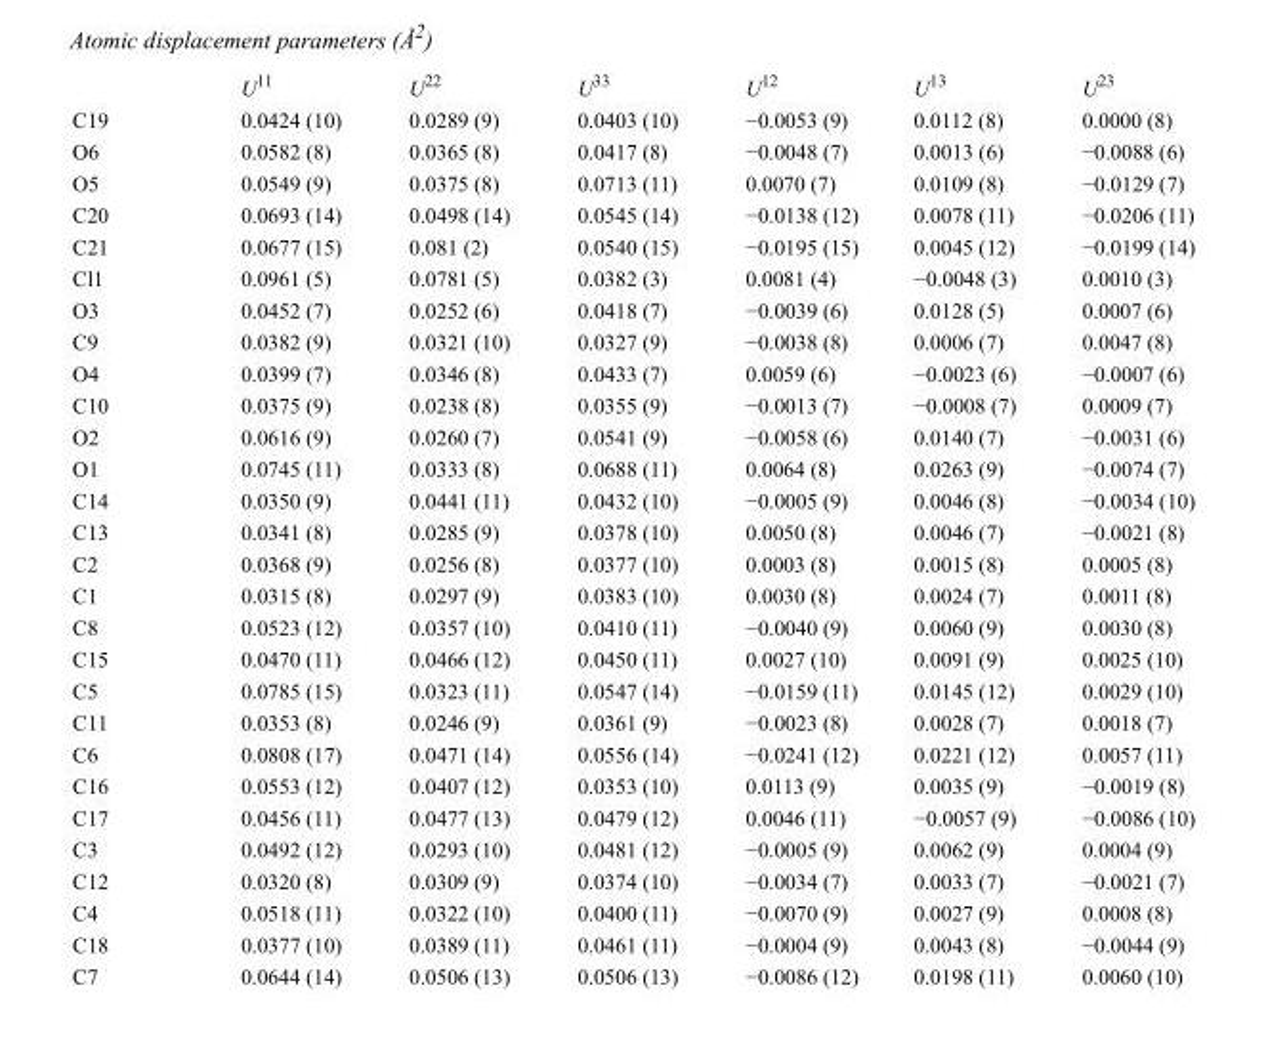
<table><thead><tr><td></td><td>U<sup>11</sup></td><td>U<sup>22</sup></td><td>U<sup>33</sup></td><td>U<sup>12</sup></td><td>U<sup>13</sup></td><td>U<sup>23</sup></td></tr></thead><tbody><tr><td>C19</td><td>0.0424 (10)</td><td>0.0289 (9)</td><td>0.0403 (10)</td><td>−0.0053 (9)</td><td>0.0112 (8)</td><td>0.0000 (8)</td></tr><tr><td>O6</td><td>0.0582 (8)</td><td>0.0365 (8)</td><td>0.0417 (8)</td><td>−0.0048 (7)</td><td>0.0013 (6)</td><td>−0.0088 (6)</td></tr><tr><td>O5</td><td>0.0549 (9)</td><td>0.0375 (8)</td><td>0.0713 (11)</td><td>0.0070 (7)</td><td>0.0109 (8)</td><td>−0.0129 (7)</td></tr><tr><td>C20</td><td>0.0693 (14)</td><td>0.0498 (14)</td><td>0.0545 (14)</td><td>−0.0138 (12)</td><td>0.0078 (11)</td><td>−0.0206 (11)</td></tr><tr><td>C21</td><td>0.0677 (15)</td><td>0.081 (2)</td><td>0.0540 (15)</td><td>−0.0195 (15)</td><td>0.0045 (12)</td><td>−0.0199 (14)</td></tr><tr><td>Cl1</td><td>0.0961 (5)</td><td>0.0781 (5)</td><td>0.0382 (3)</td><td>0.0081 (4)</td><td>−0.0048 (3)</td><td>0.0010 (3)</td></tr><tr><td>O3</td><td>0.0452 (7)</td><td>0.0252 (6)</td><td>0.0418 (7)</td><td>−0.0039 (6)</td><td>0.0128 (5)</td><td>0.0007 (6)</td></tr><tr><td>C9</td><td>0.0382 (9)</td><td>0.0321 (10)</td><td>0.0327 (9)</td><td>−0.0038 (8)</td><td>0.0006 (7)</td><td>0.0047 (8)</td></tr><tr><td>O4</td><td>0.0399 (7)</td><td>0.0346 (8)</td><td>0.0433 (7)</td><td>0.0059 (6)</td><td>−0.0023 (6)</td><td>−0.0007 (6)</td></tr><tr><td>C10</td><td>0.0375 (9)</td><td>0.0238 (8)</td><td>0.0355 (9)</td><td>−0.0013 (7)</td><td>−0.0008 (7)</td><td>0.0009 (7)</td></tr><tr><td>O2</td><td>0.0616 (9)</td><td>0.0260 (7)</td><td>0.0541 (9)</td><td>−0.0058 (6)</td><td>0.0140 (7)</td><td>−0.0031 (6)</td></tr><tr><td>O1</td><td>0.0745 (11)</td><td>0.0333 (8)</td><td>0.0688 (11)</td><td>0.0064 (8)</td><td>0.0263 (9)</td><td>−0.0074 (7)</td></tr><tr><td>C14</td><td>0.0350 (9)</td><td>0.0441 (11)</td><td>0.0432 (10)</td><td>−0.0005 (9)</td><td>0.0046 (8)</td><td>−0.0034 (10)</td></tr><tr><td>C13</td><td>0.0341 (8)</td><td>0.0285 (9)</td><td>0.0378 (10)</td><td>0.0050 (8)</td><td>0.0046 (7)</td><td>−0.0021 (8)</td></tr><tr><td>C2</td><td>0.0368 (9)</td><td>0.0256 (8)</td><td>0.0377 (10)</td><td>0.0003 (8)</td><td>0.0015 (8)</td><td>0.0005 (8)</td></tr><tr><td>C1</td><td>0.0315 (8)</td><td>0.0297 (9)</td><td>0.0383 (10)</td><td>0.0030 (8)</td><td>0.0024 (7)</td><td>0.0011 (8)</td></tr><tr><td>C8</td><td>0.0523 (12)</td><td>0.0357 (10)</td><td>0.0410 (11)</td><td>−0.0040 (9)</td><td>0.0060 (9)</td><td>0.0030 (8)</td></tr><tr><td>C15</td><td>0.0470 (11)</td><td>0.0466 (12)</td><td>0.0450 (11)</td><td>0.0027 (10)</td><td>0.0091 (9)</td><td>0.0025 (10)</td></tr><tr><td>C5</td><td>0.0785 (15)</td><td>0.0323 (11)</td><td>0.0547 (14)</td><td>−0.0159 (11)</td><td>0.0145 (12)</td><td>0.0029 (10)</td></tr><tr><td>C11</td><td>0.0353 (8)</td><td>0.0246 (9)</td><td>0.0361 (9)</td><td>−0.0023 (8)</td><td>0.0028 (7)</td><td>0.0018 (7)</td></tr><tr><td>C6</td><td>0.0808 (17)</td><td>0.0471 (14)</td><td>0.0556 (14)</td><td>−0.0241 (12)</td><td>0.0221 (12)</td><td>0.0057 (11)</td></tr><tr><td>C16</td><td>0.0553 (12)</td><td>0.0407 (12)</td><td>0.0353 (10)</td><td>0.0113 (9)</td><td>0.0035 (9)</td><td>−0.0019 (8)</td></tr><tr><td>C17</td><td>0.0456 (11)</td><td>0.0477 (13)</td><td>0.0479 (12)</td><td>0.0046 (11)</td><td>−0.0057 (9)</td><td>−0.0086 (10)</td></tr><tr><td>C3</td><td>0.0492 (12)</td><td>0.0293 (10)</td><td>0.0481 (12)</td><td>−0.0005 (9)</td><td>0.0062 (9)</td><td>0.0004 (9)</td></tr><tr><td>C12</td><td>0.0320 (8)</td><td>0.0309 (9)</td><td>0.0374 (10)</td><td>−0.0034 (7)</td><td>0.0033 (7)</td><td>−0.0021 (7)</td></tr><tr><td>C4</td><td>0.0518 (11)</td><td>0.0322 (10)</td><td>0.0400 (11)</td><td>−0.0070 (9)</td><td>0.0027 (9)</td><td>0.0008 (8)</td></tr><tr><td>C18</td><td>0.0377 (10)</td><td>0.0389 (11)</td><td>0.0461 (11)</td><td>−0.0004 (9)</td><td>0.0043 (8)</td><td>−0.0044 (9)</td></tr><tr><td>C7</td><td>0.0644 (14)</td><td>0.0506 (13)</td><td>0.0506 (13)</td><td>−0.0086 (12)</td><td>0.0198 (11)</td><td>0.0060 (10)</td></tr></tbody></table>